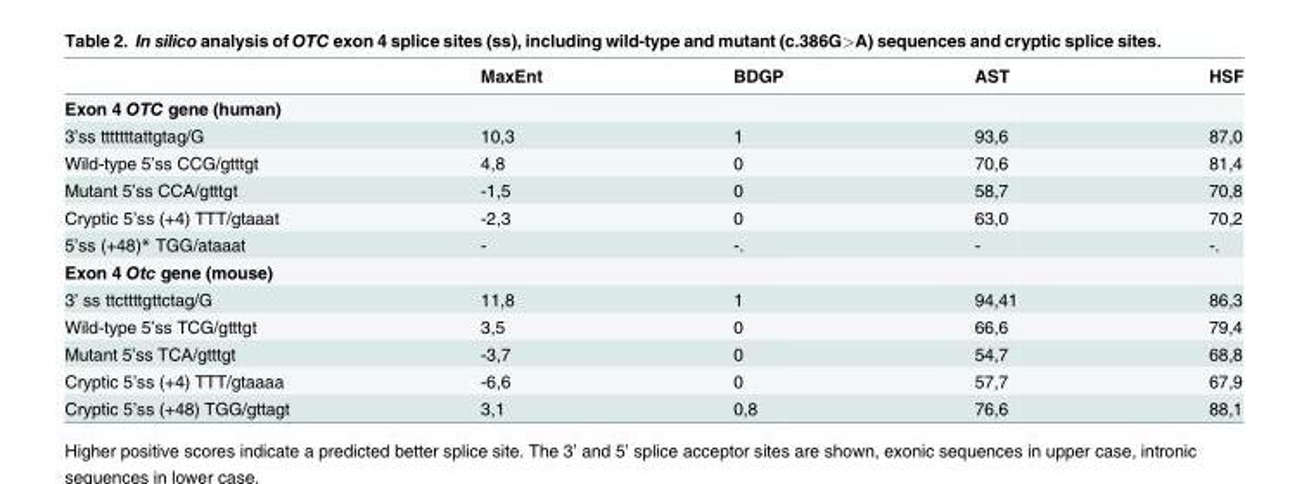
<table><thead><tr><td></td><td>MaxEnt</td><td>BDGP</td><td>AST</td><td>HSF</td></tr></thead><tbody><tr><td colspan="5">Exon 4 OTC gene (human)</td></tr><tr><td>3’ss tttttttattgtag/G</td><td>10,3</td><td>1</td><td>93,6</td><td>87,0</td></tr><tr><td>Wild-type 5’ss CCG/gtttgt</td><td>4,8</td><td>0</td><td>70,6</td><td>81,4</td></tr><tr><td>Mutant 5’ss CCA/gtttgt</td><td>-1,5</td><td>0</td><td>58,7</td><td>70,8</td></tr><tr><td>Cryptic 5’ss (+4) TTT/gtaaat</td><td>-2,3</td><td>0</td><td>63,0</td><td>70,2</td></tr><tr><td>5’ss (+48)* TGG/ataaat</td><td>-</td><td>-.</td><td>-</td><td>-.</td></tr><tr><td colspan="5">Exon 4 Otc gene (mouse)</td></tr><tr><td>3’ ss ttcttttgttctag/G</td><td>11,8</td><td>1</td><td>94,41</td><td>86,3</td></tr><tr><td>Wild-type 5’ss TCG/gtttgt</td><td>3,5</td><td>0</td><td>66,6</td><td>79,4</td></tr><tr><td>Mutant 5’ss TCA/gtttgt</td><td>-3,7</td><td>0</td><td>54,7</td><td>68,8</td></tr><tr><td>Cryptic 5’ss (+4) TTT/gtaaaa</td><td>-6,6</td><td>0</td><td>57,7</td><td>67,9</td></tr><tr><td>Cryptic 5’ss (+48) TGG/gttagt</td><td>3,1</td><td>0,8</td><td>76,6</td><td>88,1</td></tr></tbody></table>